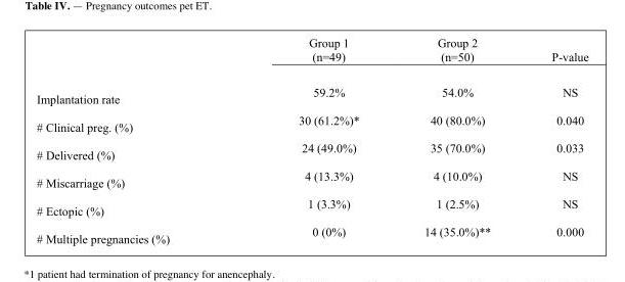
<table><thead><tr><td></td><td>Group 1 (n=49)</td><td>Group 2 (n=50)</td><td>P-value</td></tr></thead><tbody><tr><td>Implantation rate</td><td>59.2%</td><td>54.0%</td><td>NS</td></tr><tr><td># Clinical preg. (%)</td><td>30 (61.2%)*</td><td>40 (80.0%)</td><td>0.040</td></tr><tr><td># Delivered (%)</td><td>24 (49.0%)</td><td>35 (70.0%)</td><td>0.033</td></tr><tr><td># Miscarriage (%)</td><td>4 (13.3%)</td><td>4 (10.0%)</td><td>NS</td></tr><tr><td># Ectopic (%)</td><td>1 (3.3%)</td><td>1 (2.5%)</td><td>NS</td></tr><tr><td># Multiple pregnancies (%)</td><td>0 (0%)</td><td>14 (35.0%)**</td><td>0.000</td></tr></tbody></table>